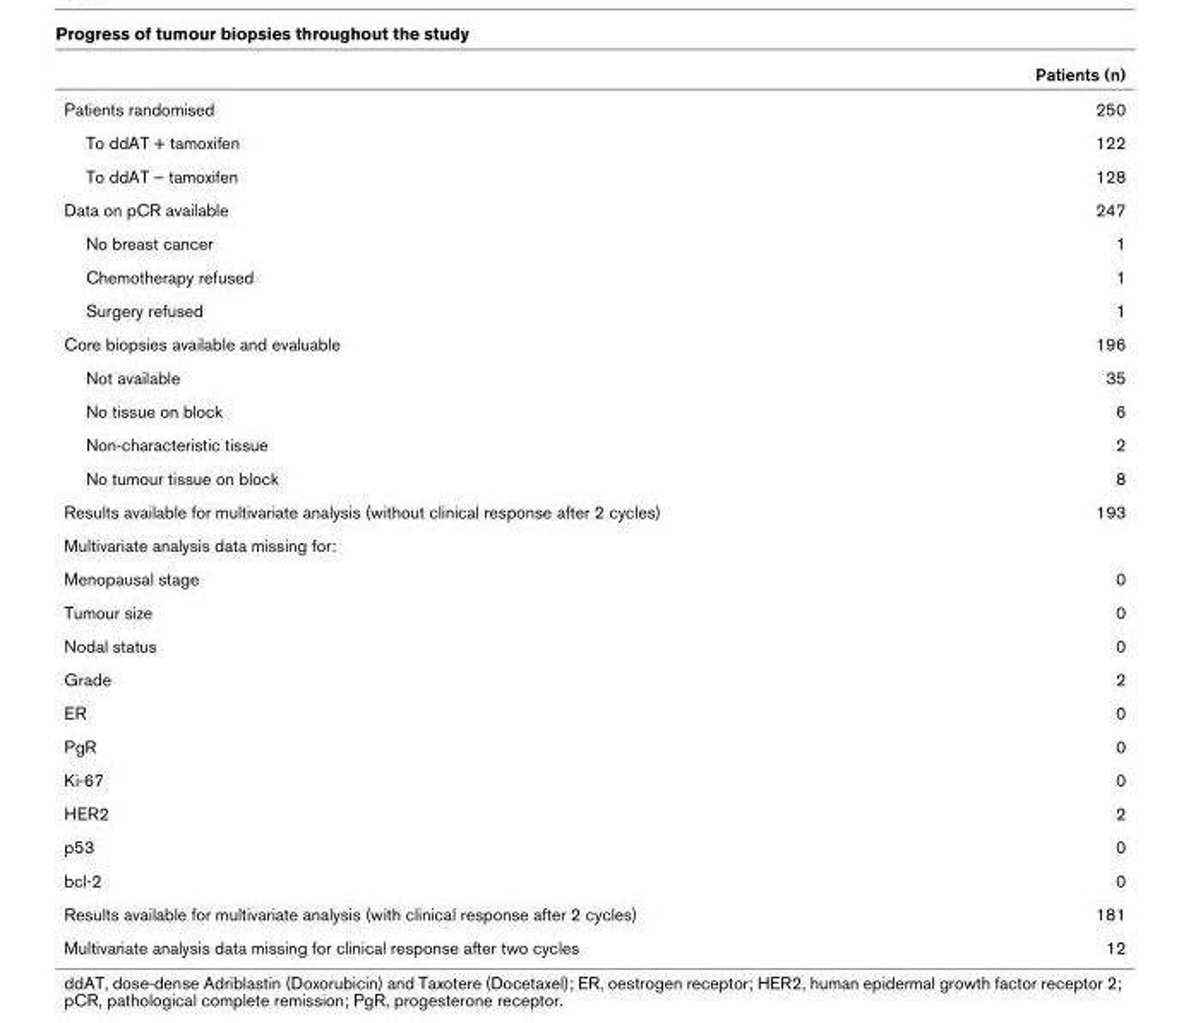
<table><thead><tr><td></td><td>Patients (n)</td></tr></thead><tbody><tr><td>Patients randomised</td><td>250</td></tr><tr><td>To ddAT + tamoxifen</td><td>122</td></tr><tr><td>To ddAT – tamoxifen</td><td>128</td></tr><tr><td>Data on pCR available</td><td>247</td></tr><tr><td>No breast cancer</td><td>1</td></tr><tr><td>Chemotherapy refused</td><td>1</td></tr><tr><td>Surgery refused</td><td>1</td></tr><tr><td>Core biopsies available and evaluable</td><td>196</td></tr><tr><td>Not available</td><td>35</td></tr><tr><td>No tissue on block</td><td>6</td></tr><tr><td>Non-characteristic tissue</td><td>2</td></tr><tr><td>No tumour tissue on block</td><td>8</td></tr><tr><td>Results available for multivariate analysis (without clinical response after 2 cycles)</td><td>193</td></tr><tr><td colspan="2">Multivariate analysis data missing for:</td></tr><tr><td>Menopausal stage</td><td>0</td></tr><tr><td>Tumour size</td><td>0</td></tr><tr><td>Nodal status</td><td>0</td></tr><tr><td>Grade</td><td>2</td></tr><tr><td>ER</td><td>0</td></tr><tr><td>PgR</td><td>0</td></tr><tr><td>Ki-67</td><td>0</td></tr><tr><td>HER2</td><td>2</td></tr><tr><td>p53</td><td>0</td></tr><tr><td>bcl-2</td><td>0</td></tr><tr><td>Results available for multivariate analysis (with clinical response after 2 cycles)</td><td>181</td></tr><tr><td>Multivariate analysis data missing for clinical response after two cycles</td><td>12</td></tr></tbody></table>